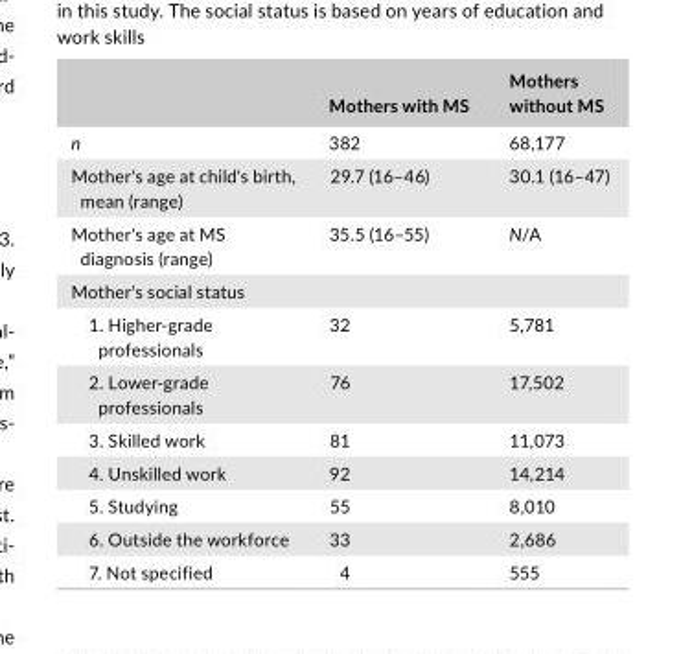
<table><thead><tr><td></td><td>Mothers with MS</td><td>Mothers without MS</td></tr></thead><tbody><tr><td>n</td><td>382</td><td>68,177</td></tr><tr><td>Mother&#x27;s age at child&#x27;s birth, mean (range)</td><td>29.7 (16–46)</td><td>30.1 (16–47)</td></tr><tr><td>Mother&#x27;s age at MS diagnosis (range)</td><td>35.5 (16–55)</td><td>N/A</td></tr><tr><td colspan="3">Mother&#x27;s social status</td></tr><tr><td>1. Higher-grade professionals</td><td>32</td><td>5,781</td></tr><tr><td>2. Lower-grade professionals</td><td>76</td><td>17,502</td></tr><tr><td>3. Skilled work</td><td>81</td><td>11,073</td></tr><tr><td>4. Unskilled work</td><td>92</td><td>14,214</td></tr><tr><td>5. Studying</td><td>55</td><td>8,010</td></tr><tr><td>6. Outside the workforce</td><td>33</td><td>2,686</td></tr><tr><td>7. Not specified</td><td>4</td><td>555</td></tr></tbody></table>